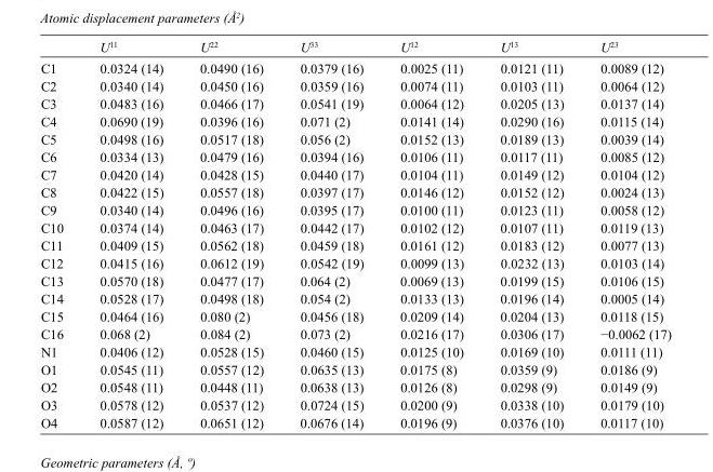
<table><thead><tr><td></td><td>U<sup>11</sup></td><td>U<sup>22</sup></td><td>U<sup>33</sup></td><td>U<sup>12</sup></td><td>U<sup>13</sup></td><td>U<sup>23</sup></td></tr></thead><tbody><tr><td>C1</td><td>0.0324 (14)</td><td>0.0490 (16)</td><td>0.0379 (16)</td><td>0.0025 (11)</td><td>0.0121 (11)</td><td>0.0089 (12)</td></tr><tr><td>C2</td><td>0.0340 (14)</td><td>0.0450 (16)</td><td>0.0359 (16)</td><td>0.0074 (11)</td><td>0.0103 (11)</td><td>0.0064 (12)</td></tr><tr><td>C3</td><td>0.0483 (16)</td><td>0.0466 (17)</td><td>0.0541 (19)</td><td>0.0064 (12)</td><td>0.0205 (13)</td><td>0.0137 (14)</td></tr><tr><td>C4</td><td>0.0690 (19)</td><td>0.0396 (16)</td><td>0.071 (2)</td><td>0.0141 (14)</td><td>0.0290 (16)</td><td>0.0115 (14)</td></tr><tr><td>C5</td><td>0.0498 (16)</td><td>0.0517 (18)</td><td>0.056 (2)</td><td>0.0152 (13)</td><td>0.0189 (13)</td><td>0.0039 (14)</td></tr><tr><td>C6</td><td>0.0334 (13)</td><td>0.0479 (16)</td><td>0.0394 (16)</td><td>0.0106 (11)</td><td>0.0117 (11)</td><td>0.0085 (12)</td></tr><tr><td>C7</td><td>0.0420 (14)</td><td>0.0428 (15)</td><td>0.0440 (17)</td><td>0.0104 (11)</td><td>0.0149 (12)</td><td>0.0104 (12)</td></tr><tr><td>C8</td><td>0.0422 (15)</td><td>0.0557 (18)</td><td>0.0397 (17)</td><td>0.0146 (12)</td><td>0.0152 (12)</td><td>0.0024 (13)</td></tr><tr><td>C9</td><td>0.0340 (14)</td><td>0.0496 (16)</td><td>0.0395 (17)</td><td>0.0100 (11)</td><td>0.0123 (11)</td><td>0.0058 (12)</td></tr><tr><td>C10</td><td>0.0374 (14)</td><td>0.0463 (17)</td><td>0.0442 (17)</td><td>0.0102 (12)</td><td>0.0107 (11)</td><td>0.0119 (13)</td></tr><tr><td>C11</td><td>0.0409 (15)</td><td>0.0562 (18)</td><td>0.0459 (18)</td><td>0.0161 (12)</td><td>0.0183 (12)</td><td>0.0077 (13)</td></tr><tr><td>C12</td><td>0.0415 (16)</td><td>0.0612 (19)</td><td>0.0542 (19)</td><td>0.0099 (13)</td><td>0.0232 (13)</td><td>0.0103 (14)</td></tr><tr><td>C13</td><td>0.0570 (18)</td><td>0.0477 (17)</td><td>0.064 (2)</td><td>0.0069 (13)</td><td>0.0199 (15)</td><td>0.0106 (15)</td></tr><tr><td>C14</td><td>0.0528 (17)</td><td>0.0498 (18)</td><td>0.054 (2)</td><td>0.0133 (13)</td><td>0.0196 (14)</td><td>0.0005 (14)</td></tr><tr><td>C15</td><td>0.0464 (16)</td><td>0.080 (2)</td><td>0.0456 (18)</td><td>0.0209 (14)</td><td>0.0204 (13)</td><td>0.0118 (15)</td></tr><tr><td>C16</td><td>0.068 (2)</td><td>0.084 (2)</td><td>0.073 (2)</td><td>0.0216 (17)</td><td>0.0306 (17)</td><td>−0.0062 (17)</td></tr><tr><td>N1</td><td>0.0406 (12)</td><td>0.0528 (15)</td><td>0.0460 (15)</td><td>0.0125 (10)</td><td>0.0169 (10)</td><td>0.0111 (11)</td></tr><tr><td>O1</td><td>0.0545 (11)</td><td>0.0557 (12)</td><td>0.0635 (13)</td><td>0.0175 (8)</td><td>0.0359 (9)</td><td>0.0186 (9)</td></tr><tr><td>O2</td><td>0.0548 (11)</td><td>0.0448 (11)</td><td>0.0638 (13)</td><td>0.0126 (8)</td><td>0.0298 (9)</td><td>0.0149 (9)</td></tr><tr><td>O3</td><td>0.0578 (12)</td><td>0.0537 (12)</td><td>0.0724 (15)</td><td>0.0200 (9)</td><td>0.0338 (10)</td><td>0.0179 (10)</td></tr><tr><td>O4</td><td>0.0587 (12)</td><td>0.0651 (12)</td><td>0.0676 (14)</td><td>0.0196 (9)</td><td>0.0376 (10)</td><td>0.0117 (10)</td></tr></tbody></table>